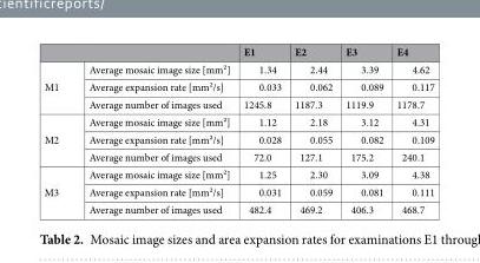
<table><thead><tr><td></td><td></td><td>E1</td><td>E2</td><td>E3</td><td>E4</td></tr></thead><tbody><tr><td rowspan="3">M1</td><td>Average mosaic image size [mm²]</td><td>1.34</td><td>2.44</td><td>3.39</td><td>4.62</td></tr><tr><td>Average expansion rate [mm²/s]</td><td>0.033</td><td>0.062</td><td>0.089</td><td>0.117</td></tr><tr><td>Average number of images used</td><td>1245.8</td><td>1187.3</td><td>1119.9</td><td>1178.7</td></tr><tr><td rowspan="3">M2</td><td>Average mosaic image size [mm²]</td><td>1.12</td><td>2.18</td><td>3.12</td><td>4.31</td></tr><tr><td>Average expansion rate [mm²/s]</td><td>0.028</td><td>0.055</td><td>0.082</td><td>0.109</td></tr><tr><td>Average number of images used</td><td>72.0</td><td>127.1</td><td>175.2</td><td>240.1</td></tr><tr><td rowspan="3">M3</td><td>Average mosaic image size [mm²]</td><td>1.25</td><td>2.30</td><td>3.09</td><td>4.38</td></tr><tr><td>Average expansion rate [mm²/s]</td><td>0.031</td><td>0.059</td><td>0.081</td><td>0.111</td></tr><tr><td>Average number of images used</td><td>482.4</td><td>469.2</td><td>406.3</td><td>468.7</td></tr></tbody></table>